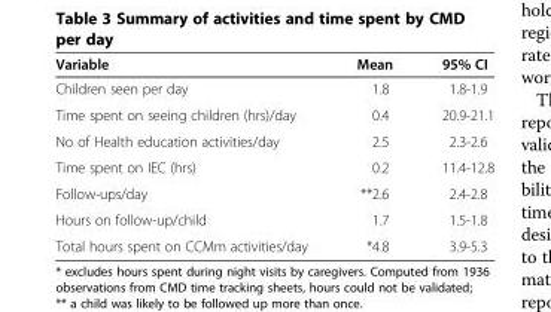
<table><thead><tr><td>Variable</td><td>Mean</td><td>95% CI</td></tr></thead><tbody><tr><td>Children seen per day</td><td>1.8</td><td>1.8-1.9</td></tr><tr><td>Time spent on seeing children (hrs)/day</td><td>0.4</td><td>20.9-21.1</td></tr><tr><td>No of Health education activities/day</td><td>2.5</td><td>2.3-2.6</td></tr><tr><td>Time spent on IEC (hrs)</td><td>0.2</td><td>11.4-12.8</td></tr><tr><td>Follow-ups/day</td><td>**2.6</td><td>2.4-2.8</td></tr><tr><td>Hours on follow-up/child</td><td>1.7</td><td>1.5-1.8</td></tr><tr><td>Total hours spent on CCMm activities/day</td><td>*4.8</td><td>3.9-5.3</td></tr></tbody></table>